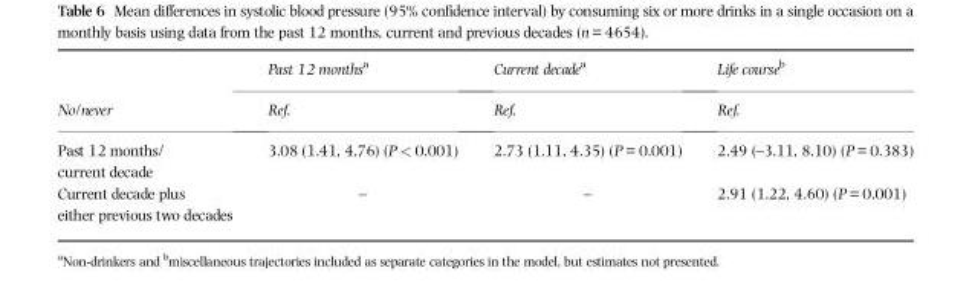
<table><thead><tr><td rowspan="2">No/never</td><td rowspan="2">Past 12 monthsa Ref.</td><td rowspan="2">Current decadea Ref.</td><td rowspan="2">Life courseb Ref.</td></tr><tr></tr></thead><tbody><tr><td>Past 12 months/ current decade</td><td>3.08 (1.41, 4.76) (P &lt; 0.001)</td><td>2.73 (1.11, 4.35) (P = 0.001)</td><td>2.49 (–3.11, 8.10) (P = 0.383)</td></tr><tr><td>Current decade plus either previous two decades</td><td>–</td><td>–</td><td>2.91 (1.22, 4.60) (P = 0.001)</td></tr></tbody></table>